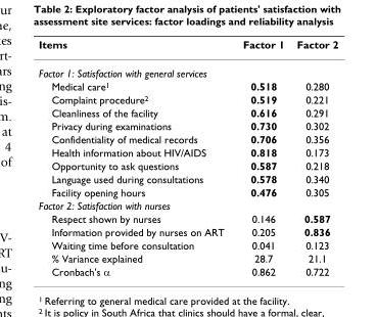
<table><thead><tr><td>Items</td><td>Factor 1</td><td>Factor 2</td></tr></thead><tbody><tr><td colspan="3">Factor 1: Satisfaction with general services</td></tr><tr><td>Medical care<sup>1</sup></td><td>0.518</td><td>0.280</td></tr><tr><td>Complaint procedure<sup>2</sup></td><td>0.519</td><td>0.221</td></tr><tr><td>Cleanliness of the facility</td><td>0.616</td><td>0.291</td></tr><tr><td>Privacy during examinations</td><td>0.730</td><td>0.302</td></tr><tr><td>Confidentiality of medical records</td><td>0.706</td><td>0.356</td></tr><tr><td>Health information about HIV/AIDS</td><td>0.818</td><td>0.173</td></tr><tr><td>Opportunity to ask questions</td><td>0.587</td><td>0.218</td></tr><tr><td>Language used during consultations</td><td>0.578</td><td>0.340</td></tr><tr><td>Facility opening hours</td><td>0.476</td><td>0.305</td></tr><tr><td colspan="3">Factor 2: Satisfaction with nurses</td></tr><tr><td>Respect shown by nurses</td><td>0.146</td><td>0.587</td></tr><tr><td>Information provided by nurses on ART</td><td>0.205</td><td>0.836</td></tr><tr><td>Waiting time before consultation</td><td>0.041</td><td>0.123</td></tr><tr><td>% Variance explained</td><td>28.7</td><td>21.1</td></tr><tr><td>Cronbach&#x27;s α</td><td>0.862</td><td>0.722</td></tr></tbody></table>